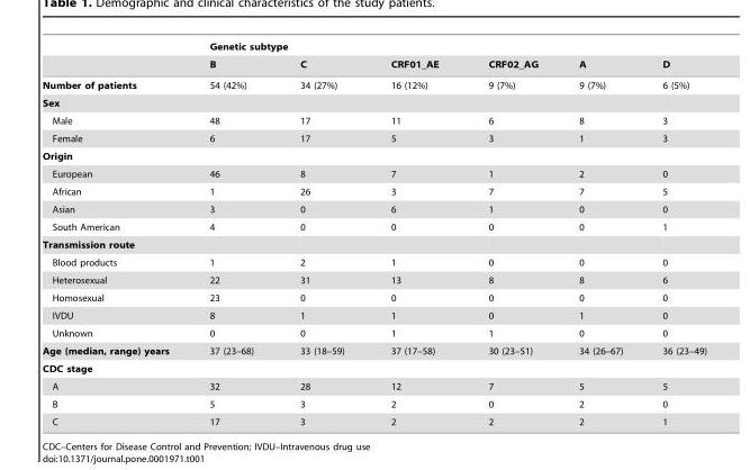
<table><thead><tr><td rowspan="2"></td><td colspan="6">Genetic subtype</td></tr><tr><td>B</td><td>C</td><td>CRF01_AE</td><td>CRF02_AG</td><td>A</td><td>D</td></tr></thead><tbody><tr><td>Number of patients</td><td>54 (42%)</td><td>34 (27%)</td><td>16 (12%)</td><td>9 (7%)</td><td>9 (7%)</td><td>6 (5%)</td></tr><tr><td colspan="7">Sex</td></tr><tr><td>Male</td><td>48</td><td>17</td><td>11</td><td>6</td><td>8</td><td>3</td></tr><tr><td>Female</td><td>6</td><td>17</td><td>5</td><td>3</td><td>1</td><td>3</td></tr><tr><td colspan="7">Origin</td></tr><tr><td>European</td><td>46</td><td>8</td><td>7</td><td>1</td><td>2</td><td>0</td></tr><tr><td>African</td><td>1</td><td>26</td><td>3</td><td>7</td><td>7</td><td>5</td></tr><tr><td>Asian</td><td>3</td><td>0</td><td>6</td><td>1</td><td>0</td><td>0</td></tr><tr><td>South American</td><td>4</td><td>0</td><td>0</td><td>0</td><td>0</td><td>1</td></tr><tr><td colspan="7">Transmission route</td></tr><tr><td>Blood products</td><td>1</td><td>2</td><td>1</td><td>0</td><td>0</td><td>0</td></tr><tr><td>Heterosexual</td><td>22</td><td>31</td><td>13</td><td>8</td><td>8</td><td>6</td></tr><tr><td>Homosexual</td><td>23</td><td>0</td><td>0</td><td>0</td><td>0</td><td>0</td></tr><tr><td>IVDU</td><td>8</td><td>1</td><td>1</td><td>0</td><td>1</td><td>0</td></tr><tr><td>Unknown</td><td>0</td><td>0</td><td>1</td><td>1</td><td>0</td><td>0</td></tr><tr><td>Age (median, range) years</td><td>37 (23–68)</td><td>33 (18–59)</td><td>37 (17–58)</td><td>30 (23–51)</td><td>34 (26–67)</td><td>36 (23–49)</td></tr><tr><td colspan="7">CDC stage</td></tr><tr><td>A</td><td>32</td><td>28</td><td>12</td><td>7</td><td>5</td><td>5</td></tr><tr><td>B</td><td>5</td><td>3</td><td>2</td><td>0</td><td>2</td><td>0</td></tr><tr><td>C</td><td>17</td><td>3</td><td>2</td><td>2</td><td>2</td><td>1</td></tr></tbody></table>